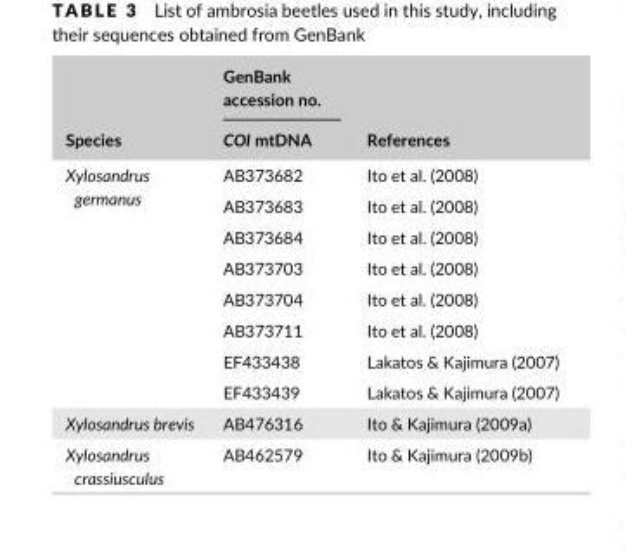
<table><thead><tr><td rowspan="2">Species</td><td rowspan="2">GenBank accession no. COI mtDNA</td><td rowspan="2">References</td></tr><tr></tr></thead><tbody><tr><td rowspan="8">Xylosandrus germanus</td><td>AB373682</td><td>Ito et al. (2008)</td></tr><tr><td>AB373683</td><td>Ito et al. (2008)</td></tr><tr><td>AB373684</td><td>Ito et al. (2008)</td></tr><tr><td>AB373703</td><td>Ito et al. (2008)</td></tr><tr><td>AB373704</td><td>Ito et al. (2008)</td></tr><tr><td>AB373711</td><td>Ito et al. (2008)</td></tr><tr><td>EF433438</td><td>Lakatos &amp; Kajimura (2007)</td></tr><tr><td>EF433439</td><td>Lakatos &amp; Kajimura (2007)</td></tr><tr><td>Xylosandrus brevis</td><td>AB476316</td><td>Ito &amp; Kajimura (2009a)</td></tr><tr><td>Xylosandrus crassiusculus</td><td>AB462579</td><td>Ito &amp; Kajimura (2009b)</td></tr></tbody></table>